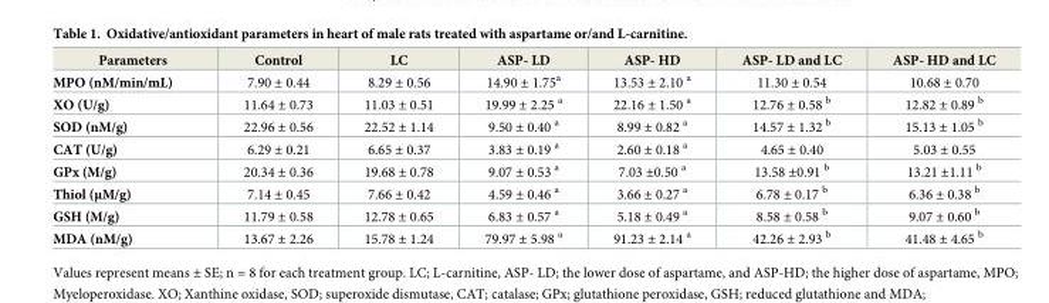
<table><thead><tr><td>Parameters</td><td>Control</td><td>LC</td><td>ASP- LD</td><td>ASP- HD</td><td>ASP- LD and LC</td><td>ASP- HD and LC</td></tr></thead><tbody><tr><td>MPO (nM/min/mL)</td><td>7.90 ± 0.44</td><td>8.29 ± 0.56</td><td>14.90 ± 1.75<sup>a</sup></td><td>13.53 ± 2.10 <sup>a</sup></td><td>11.30 ± 0.54</td><td>10.68 ± 0.70</td></tr><tr><td>XO (U/g)</td><td>11.64 ± 0.73</td><td>11.03 ± 0.51</td><td>19.99 ± 2.25 <sup>a</sup></td><td>22.16 ± 1.50 <sup>a</sup></td><td>12.76 ± 0.58 <sup>b</sup></td><td>12.82 ± 0.89 <sup>b</sup></td></tr><tr><td>SOD (nM/g)</td><td>22.96 ± 0.56</td><td>22.52 ± 1.14</td><td>9.50 ± 0.40 <sup>a</sup></td><td>8.99 ± 0.82 <sup>a</sup></td><td>14.57 ± 1.32 <sup>b</sup></td><td>15.13 ± 1.05 <sup>b</sup></td></tr><tr><td>CAT (U/g)</td><td>6.29 ± 0.21</td><td>6.65 ± 0.37</td><td>3.83 ± 0.19 <sup>a</sup></td><td>2.60 ± 0.18 <sup>a</sup></td><td>4.65 ± 0.40</td><td>5.03 ± 0.55</td></tr><tr><td>GPx (M/g)</td><td>20.34 ± 0.36</td><td>19.68 ± 0.78</td><td>9.07 ± 0.53 <sup>a</sup></td><td>7.03 ±0.50 <sup>a</sup></td><td>13.58 ±0.91 <sup>b</sup></td><td>13.21 ±1.11 <sup>b</sup></td></tr><tr><td>Thiol (μM/g)</td><td>7.14 ± 0.45</td><td>7.66 ± 0.42</td><td>4.59 ± 0.46 <sup>a</sup></td><td>3.66 ± 0.27 <sup>a</sup></td><td>6.78 ± 0.17 <sup>b</sup></td><td>6.36 ± 0.38 <sup>b</sup></td></tr><tr><td>GSH (M/g)</td><td>11.79 ± 0.58</td><td>12.78 ± 0.65</td><td>6.83 ± 0.57 <sup>a</sup></td><td>5.18 ± 0.49 <sup>a</sup></td><td>8.58 ± 0.58 <sup>b</sup></td><td>9.07 ± 0.60 <sup>b</sup></td></tr><tr><td>MDA (nM/g)</td><td>13.67 ± 2.26</td><td>15.78 ± 1.24</td><td>79.97 ± 5.98 <sup>a</sup></td><td>91.23 ± 2.14 <sup>a</sup></td><td>42.26 ± 2.93 <sup>b</sup></td><td>41.48 ± 4.65 <sup>b</sup></td></tr></tbody></table>